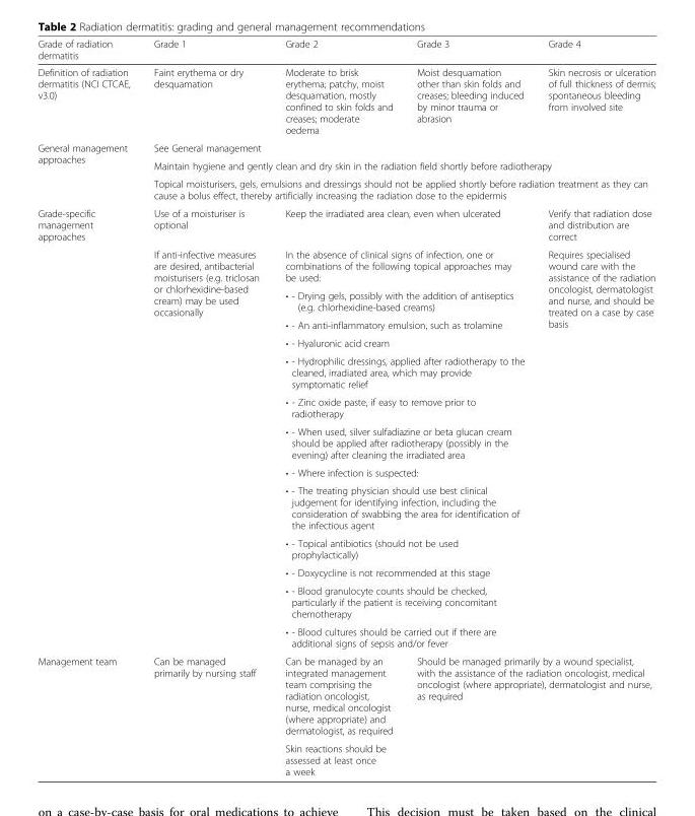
<table><thead><tr><td>Grade of radiation dermatitis</td><td>Grade 1</td><td>Grade 2</td><td>Grade 3</td><td>Grade 4</td></tr></thead><tbody><tr><td>Definition of radiation dermatitis (NCI CTCAE, v3.0)</td><td>Faint erythema or dry desquamation</td><td>Moderate to brisk erythema; patchy, moist desquamation, mostly confined to skin folds and creases; moderate oedema</td><td>Moist desquamation other than skin folds and creases; bleeding induced by minor trauma or abrasion</td><td>Skin necrosis or ulceration of full thickness of dermis; spontaneous bleeding from involved site</td></tr><tr><td rowspan="3">General management approaches</td><td colspan="4">See General management</td></tr><tr><td colspan="4">Maintain hygiene and gently clean and dry skin in the radiation field shortly before radiotherapy</td></tr><tr><td colspan="4">Topical moisturisers, gels, emulsions and dressings should not be applied shortly before radiation treatment as they can cause a bolus effect, thereby artificially increasing the radiation dose to the epidermis</td></tr><tr><td rowspan="14">Grade-specific management approaches</td><td>Use of a moisturiser is optional</td><td colspan="2">Keep the irradiated area clean, even when ulcerated</td><td>Verify that radiation dose and distribution are correct</td></tr><tr><td rowspan="13">If anti-infective measures are desired, antibacterial moisturisers (e.g. triclosan or chlorhexidine-based cream) may be used occasionally</td><td colspan="2">In the absence of clinical signs of infection, one or combinations of the following topical approaches may be used:</td><td rowspan="13">Requires specialised wound care with the assistance of the radiation oncologist, dermatologist and nurse, and should be treated on a case by case basis</td></tr><tr><td colspan="2">• - Drying gels, possibly with the addition of antiseptics (e.g. chlorhexidine-based creams)</td></tr><tr><td colspan="2">• - An anti-inflammatory emulsion, such as trolamine</td></tr><tr><td colspan="2">• - Hyaluronic acid cream</td></tr><tr><td colspan="2">• - Hydrophilic dressings, applied after radiotherapy to the cleaned, irradiated area, which may provide symptomatic relief</td></tr><tr><td colspan="2">• - Zinc oxide paste, if easy to remove prior to radiotherapy</td></tr><tr><td colspan="2">• - When used, silver sulfadiazine or beta glucan cream should be applied after radiotherapy (possibly in the evening) after cleaning the irradiated area</td></tr><tr><td colspan="2">• - Where infection is suspected:</td></tr><tr><td colspan="2">• - The treating physician should use best clinical judgement for identifying infection, including the consideration of swabbing the area for identification of the infectious agent</td></tr><tr><td colspan="2">• - Topical antibiotics (should not be used prophylactically)</td></tr><tr><td colspan="2">• - Doxycycline is not recommended at this stage</td></tr><tr><td colspan="2">• - Blood granulocyte counts should be checked, particularly if the patient is receiving concomitant chemotherapy</td></tr><tr><td colspan="2">• - Blood cultures should be carried out if there are additional signs of sepsis and/or fever</td></tr><tr><td rowspan="2">Management team</td><td rowspan="2">Can be managed primarily by nursing staff</td><td>Can be managed by an integrated management team comprising the radiation oncologist, nurse, medical oncologist (where appropriate) and dermatologist, as required</td><td rowspan="2" colspan="2">Should be managed primarily by a wound specialist, with the assistance of the radiation oncologist, medical oncologist (where appropriate), dermatologist and nurse, as required</td></tr><tr><td>Skin reactions should be assessed at least once a week</td></tr></tbody></table>